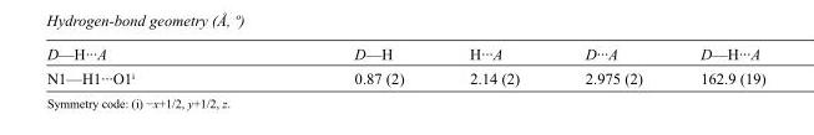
<table><tbody><tr><td>D—H···A</td><td>D—H</td><td>H···A</td><td>D···A</td><td>D—H···A</td></tr><tr><td>N1—H1···O1<sup>i</sup></td><td>0.87 (2)</td><td>2.14 (2)</td><td>2.975 (2)</td><td>162.9 (19)</td></tr></tbody></table>